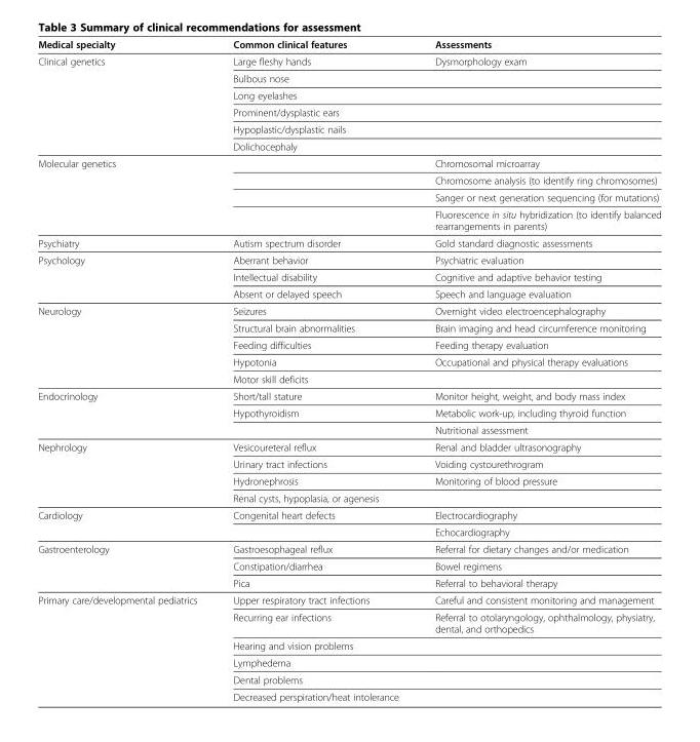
<table><thead><tr><td>Medical specialty</td><td>Common clinical features</td><td>Assessments</td></tr></thead><tbody><tr><td rowspan="6">Clinical genetics</td><td>Large fleshy hands</td><td>Dysmorphology exam</td></tr><tr><td>Bulbous nose</td><td></td></tr><tr><td>Long eyelashes</td><td></td></tr><tr><td>Prominent/dysplastic ears</td><td></td></tr><tr><td>Hypoplastic/dysplastic nails</td><td></td></tr><tr><td>Dolichocephaly</td><td></td></tr><tr><td rowspan="4">Molecular genetics</td><td></td><td>Chromosomal microarray</td></tr><tr><td></td><td>Chromosome analysis (to identify ring chromosomes)</td></tr><tr><td></td><td>Sanger or next generation sequencing (for mutations)</td></tr><tr><td></td><td>Fluorescence in situ hybridization (to identify balanced rearrangements in parents)</td></tr><tr><td>Psychiatry</td><td>Autism spectrum disorder</td><td>Gold standard diagnostic assessments</td></tr><tr><td rowspan="3">Psychology</td><td>Aberrant behavior</td><td>Psychiatric evaluation</td></tr><tr><td>Intellectual disability</td><td>Cognitive and adaptive behavior testing</td></tr><tr><td>Absent or delayed speech</td><td>Speech and language evaluation</td></tr><tr><td rowspan="5">Neurology</td><td>Seizures</td><td>Overnight video electroencephalography</td></tr><tr><td>Structural brain abnormalities</td><td>Brain imaging and head circumference monitoring</td></tr><tr><td>Feeding difficulties</td><td>Feeding therapy evaluation</td></tr><tr><td>Hypotonia</td><td>Occupational and physical therapy evaluations</td></tr><tr><td>Motor skill deficits</td><td></td></tr><tr><td rowspan="3">Endocrinology</td><td>Short/tall stature</td><td>Monitor height, weight, and body mass index</td></tr><tr><td>Hypothyroidism</td><td>Metabolic work-up, including thyroid function</td></tr><tr><td></td><td>Nutritional assessment</td></tr><tr><td rowspan="4">Nephrology</td><td>Vesicoureteral reflux</td><td>Renal and bladder ultrasonography</td></tr><tr><td>Urinary tract infections</td><td>Voiding cystourethrogram</td></tr><tr><td>Hydronephrosis</td><td>Monitoring of blood pressure</td></tr><tr><td>Renal cysts, hypoplasia, or agenesis</td><td></td></tr><tr><td rowspan="2">Cardiology</td><td>Congenital heart defects</td><td>Electrocardiography</td></tr><tr><td></td><td>Echocardiography</td></tr><tr><td rowspan="3">Gastroenterology</td><td>Gastroesophageal reflux</td><td>Referral for dietary changes and/or medication</td></tr><tr><td>Constipation/diarrhea</td><td>Bowel regimens</td></tr><tr><td>Pica</td><td>Referral to behavioral therapy</td></tr><tr><td rowspan="6">Primary care/developmental pediatrics</td><td>Upper respiratory tract infections</td><td>Careful and consistent monitoring and management</td></tr><tr><td>Recurring ear infections</td><td>Referral to otolaryngology, ophthalmology, physiatry, dental, and orthopedics</td></tr><tr><td>Hearing and vision problems</td><td></td></tr><tr><td>Lymphedema</td><td></td></tr><tr><td>Dental problems</td><td></td></tr><tr><td>Decreased perspiration/heat intolerance</td><td></td></tr></tbody></table>